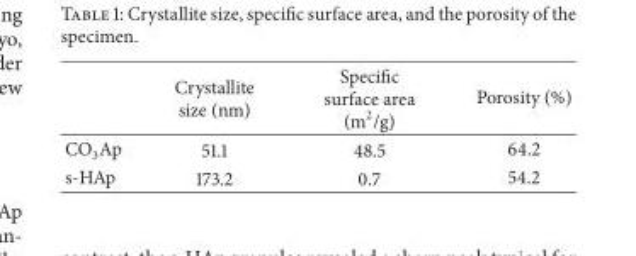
<table><thead><tr><td></td><td>Crystallite size (nm)</td><td>Specific surface area (m<sup>2</sup>/g)</td><td>Porosity (%)</td></tr></thead><tbody><tr><td>CO<sub>3</sub>Ap</td><td>51.1</td><td>48.5</td><td>64.2</td></tr><tr><td>s-HAp</td><td>173.2</td><td>0.7</td><td>54.2</td></tr></tbody></table>